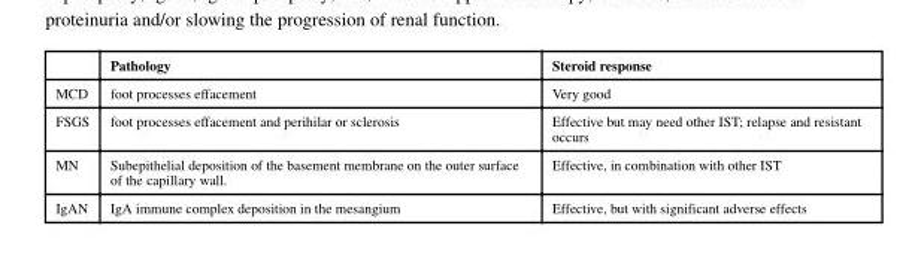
<table><thead><tr><td></td><td>Pathology</td><td>Steroid response</td></tr></thead><tbody><tr><td>MCD</td><td>foot processes effacement</td><td>Very good</td></tr><tr><td>FSGS</td><td>foot processes effacement and perihilar or sclerosis</td><td>Effective but may need other IST; relapse and resistant occurs</td></tr><tr><td>MN</td><td>Subepithelial deposition of the basement membrane on the outer surface of the capillary wall.</td><td>Effective, in combination with other IST</td></tr><tr><td>IgAN</td><td>IgA immune complex deposition in the mesangium</td><td>Effective, but with significant adverse effects</td></tr></tbody></table>